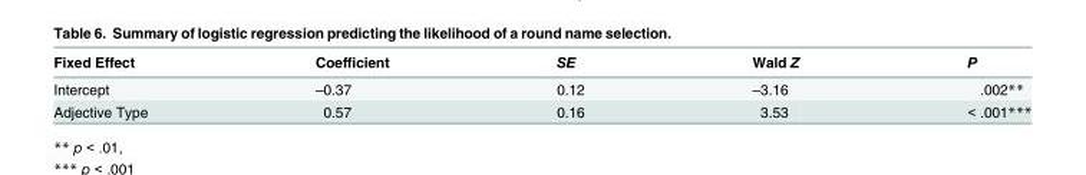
<table><thead><tr><td>Fixed Effect</td><td>Coefficient</td><td>SE</td><td>Wald Z</td><td>P</td></tr></thead><tbody><tr><td>Intercept</td><td>–0.37</td><td>0.12</td><td>–3.16</td><td>.002**</td></tr><tr><td>Adjective Type</td><td>0.57</td><td>0.16</td><td>3.53</td><td>&lt; .001***</td></tr></tbody></table>